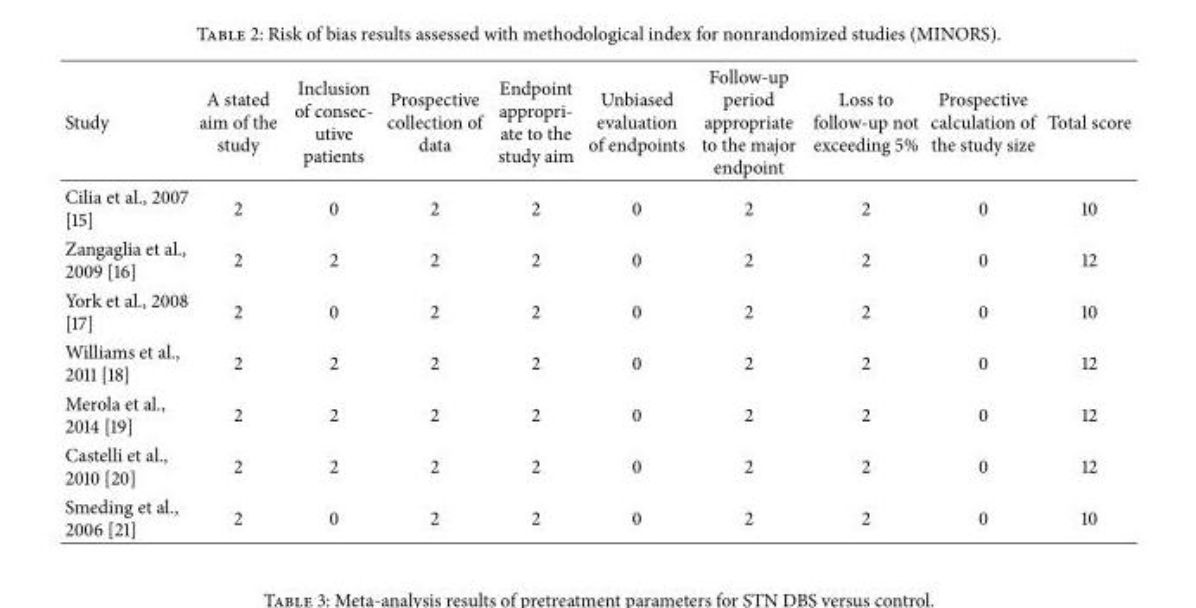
<table><thead><tr><td>Study</td><td>A stated aim of the study</td><td>Inclusion of consec- utive patients</td><td>Prospective collection of data</td><td>Endpoint appropri- ate to the study aim</td><td>Unbiased evaluation of endpoints</td><td>Follow-up period appropriate to the major endpoint</td><td>Loss to follow-up not exceeding 5%</td><td>Prospective calculation of the study size</td><td>Total score</td></tr></thead><tbody><tr><td>Cilia et al., 2007 [15]</td><td>2</td><td>0</td><td>2</td><td>2</td><td>0</td><td>2</td><td>2</td><td>0</td><td>10</td></tr><tr><td>Zangaglia et al., 2009 [16]</td><td>2</td><td>2</td><td>2</td><td>2</td><td>0</td><td>2</td><td>2</td><td>0</td><td>12</td></tr><tr><td>York et al., 2008 [17]</td><td>2</td><td>0</td><td>2</td><td>2</td><td>0</td><td>2</td><td>2</td><td>0</td><td>10</td></tr><tr><td>Williams et al., 2011 [18]</td><td>2</td><td>2</td><td>2</td><td>2</td><td>0</td><td>2</td><td>2</td><td>0</td><td>12</td></tr><tr><td>Merola et al., 2014 [19]</td><td>2</td><td>2</td><td>2</td><td>2</td><td>0</td><td>2</td><td>2</td><td>0</td><td>12</td></tr><tr><td>Castelli et al., 2010 [20]</td><td>2</td><td>2</td><td>2</td><td>2</td><td>0</td><td>2</td><td>2</td><td>0</td><td>12</td></tr><tr><td>Smeding et al., 2006 [21]</td><td>2</td><td>0</td><td>2</td><td>2</td><td>0</td><td>2</td><td>2</td><td>0</td><td>10</td></tr></tbody></table>